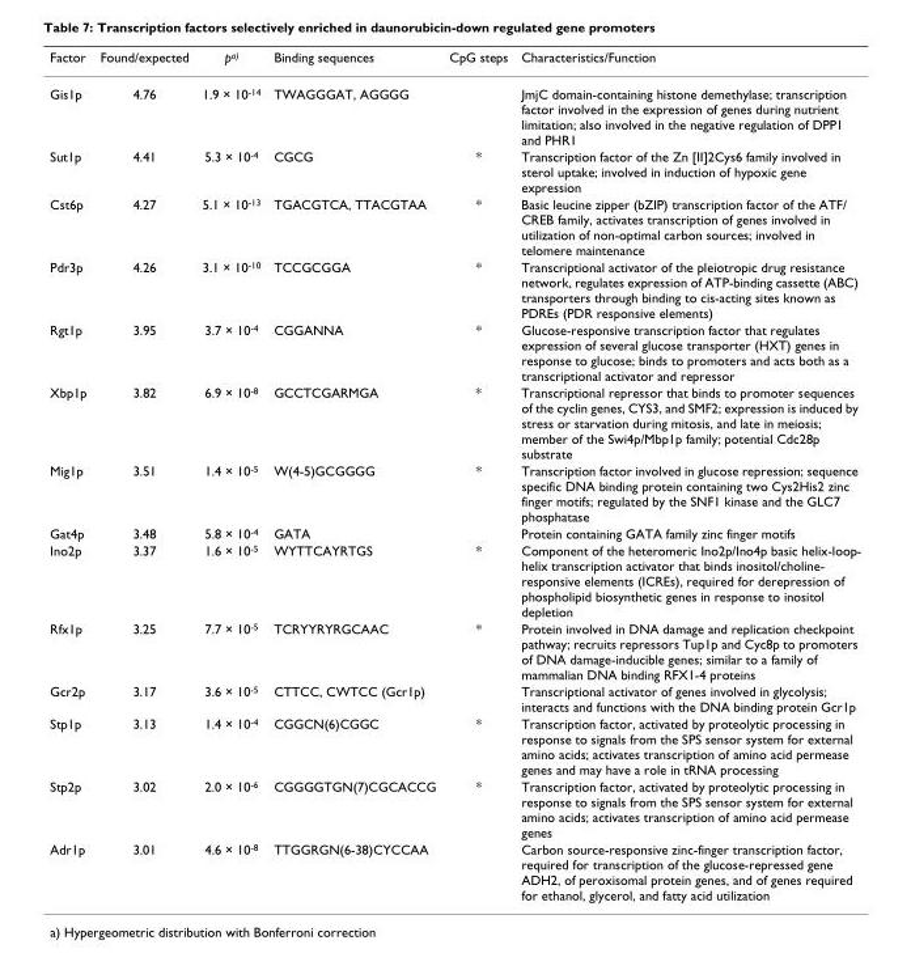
<table><thead><tr><td>Factor</td><td>Found/expected</td><td>p<sup>a)</sup></td><td>Binding sequences</td><td>CpG steps</td><td>Characteristics/Function</td></tr></thead><tbody><tr><td>Gis1p</td><td>4.76</td><td>1.9 × 10<sup>-14</sup></td><td>TWAGGGAT, AGGGG</td><td></td><td>JmjC domain-containing histone demethylase; transcription factor involved in the expression of genes during nutrient limitation; also involved in the negative regulation of DPP1 and PHR1</td></tr><tr><td>Sut1p</td><td>4.41</td><td>5.3 × 10<sup>-4</sup></td><td>CGCG</td><td>*</td><td>Transcription factor of the Zn [II]2Cys6 family involved in sterol uptake; involved in induction of hypoxic gene expression</td></tr><tr><td>Cst6p</td><td>4.27</td><td>5.1 × 10<sup>-13</sup></td><td>TGACGTCA, TTACGTAA</td><td>*</td><td>Basic leucine zipper (bZIP) transcription factor of the ATF/ CREB family, activates transcription of genes involved in utilization of non-optimal carbon sources; involved in telomere maintenance</td></tr><tr><td>Pdr3p</td><td>4.26</td><td>3.1 × 10<sup>-10</sup></td><td>TCCGCGGA</td><td>*</td><td>Transcriptional activator of the pleiotropic drug resistance network, regulates expression of ATP-binding cassette (ABC) transporters through binding to cis-acting sites known as PDREs (PDR responsive elements)</td></tr><tr><td>Rgt1p</td><td>3.95</td><td>3.7 × 10<sup>-4</sup></td><td>CGGANNA</td><td>*</td><td>Glucose-responsive transcription factor that regulates expression of several glucose transporter (HXT) genes in response to glucose; binds to promoters and acts both as a transcriptional activator and repressor</td></tr><tr><td>Xbp1p</td><td>3.82</td><td>6.9 × 10<sup>-8</sup></td><td>GCCTCGARMGA</td><td>*</td><td>Transcriptional repressor that binds to promoter sequences of the cyclin genes, CYS3, and SMF2; expression is induced by stress or starvation during mitosis, and late in meiosis; member of the Swi4p/Mbp1p family; potential Cdc28p substrate</td></tr><tr><td>Mig1p</td><td>3.51</td><td>1.4 × 10<sup>-5</sup></td><td>W(4-5)GCGGGG</td><td>*</td><td>Transcription factor involved in glucose repression; sequence specific DNA binding protein containing two Cys2His2 zinc finger motifs; regulated by the SNF1 kinase and the GLC7 phosphatase</td></tr><tr><td>Gat4p</td><td>3.48</td><td>5.8 × 10<sup>-4</sup></td><td>GATA</td><td></td><td>Protein containing GATA family zinc finger motifs</td></tr><tr><td>Ino2p</td><td>3.37</td><td>1.6 × 10<sup>-5</sup></td><td>WYTTCAYRTGS</td><td>*</td><td>Component of the heteromeric Ino2p/Ino4p basic helix-loop- helix transcription activator that binds inositol/choline- responsive elements (ICREs), required for derepression of phospholipid biosynthetic genes in response to inositol depletion</td></tr><tr><td>Rfx1p</td><td>3.25</td><td>7.7 × 10<sup>-5</sup></td><td>TCRYYRYRGCAAC</td><td>*</td><td>Protein involved in DNA damage and replication checkpoint pathway; recruits repressors Tup1p and Cyc8p to promoters of DNA damage-inducible genes; similar to a family of mammalian DNA binding RFX1-4 proteins</td></tr><tr><td>Gcr2p</td><td>3.17</td><td>3.6 × 10<sup>-5</sup></td><td>CTTCC, CWTCC (Gcr1p)</td><td></td><td>Transcriptional activator of genes involved in glycolysis; interacts and functions with the DNA binding protein Gcr1p</td></tr><tr><td>Stp1p</td><td>3.13</td><td>1.4 × 10<sup>-4</sup></td><td>CGGCN(6)CGGC</td><td>*</td><td>Transcription factor, activated by proteolytic processing in response to signals from the SPS sensor system for external amino acids; activates transcription of amino acid permease genes and may have a role in tRNA processing</td></tr><tr><td>Stp2p</td><td>3.02</td><td>2.0 × 10<sup>-6</sup></td><td>CGGGGTGN(7)CGCACCG</td><td>*</td><td>Transcription factor, activated by proteolytic processing in response to signals from the SPS sensor system for external amino acids; activates transcription of amino acid permease genes</td></tr><tr><td>Adr1p</td><td>3.01</td><td>4.6 × 10<sup>-8</sup></td><td>TTGGRGN(6-38)CYCCAA</td><td></td><td>Carbon source-responsive zinc-finger transcription factor, required for transcription of the glucose-repressed gene ADH2, of peroxisomal protein genes, and of genes required for ethanol, glycerol, and fatty acid utilization</td></tr></tbody></table>